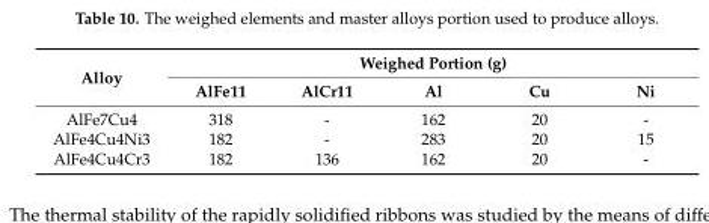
<table><thead><tr><td rowspan="2">Alloy</td><td colspan="5">Weighed Portion (g)</td></tr><tr><td>AlFe11</td><td>AlCr11</td><td>Al</td><td>Cu</td><td>Ni</td></tr></thead><tbody><tr><td>AlFe7Cu4</td><td>318</td><td>-</td><td>162</td><td>20</td><td>-</td></tr><tr><td>AlFe4Cu4Ni3</td><td>182</td><td>-</td><td>283</td><td>20</td><td>15</td></tr><tr><td>AlFe4Cu4Cr3</td><td>182</td><td>136</td><td>162</td><td>20</td><td>-</td></tr></tbody></table>